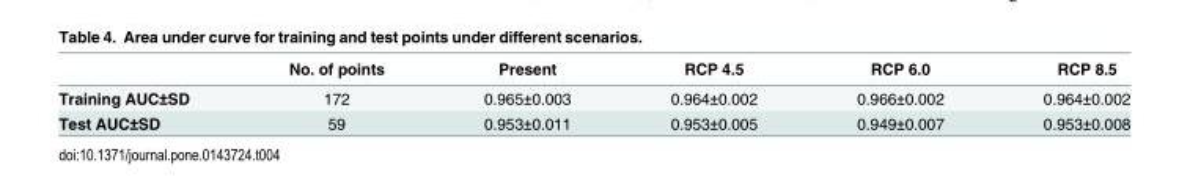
<table><thead><tr><td></td><td>No. of points</td><td>Present</td><td>RCP 4.5</td><td>RCP 6.0</td><td>RCP 8.5</td></tr></thead><tbody><tr><td>Training AUC±SD</td><td>172</td><td>0.965±0.003</td><td>0.964±0.002</td><td>0.966±0.002</td><td>0.964±0.002</td></tr><tr><td>Test AUC±SD</td><td>59</td><td>0.953±0.011</td><td>0.953±0.005</td><td>0.949±0.007</td><td>0.953±0.008</td></tr></tbody></table>